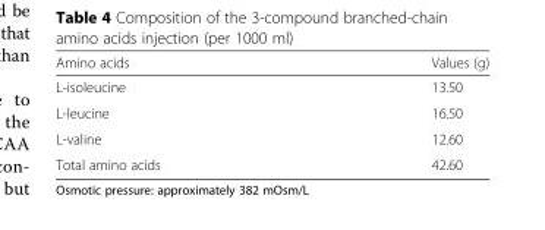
<table><thead><tr><td>Amino acids</td><td>Values (g)</td></tr></thead><tbody><tr><td>L-isoleucine</td><td>13.50</td></tr><tr><td>L-leucine</td><td>16.50</td></tr><tr><td>L-valine</td><td>12.60</td></tr><tr><td>Total amino acids</td><td>42.60</td></tr></tbody></table>